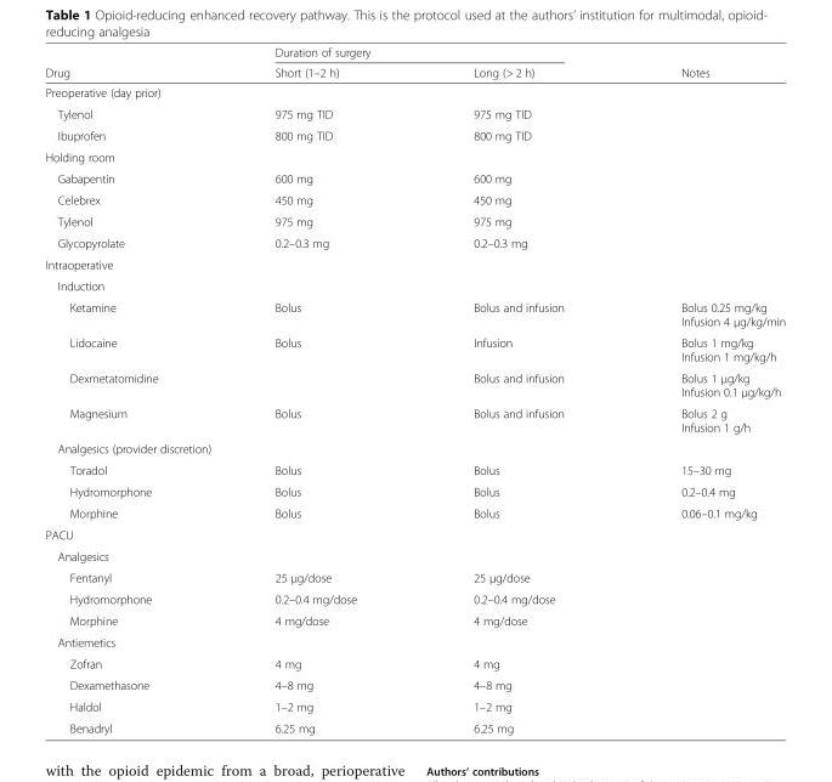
<table><thead><tr><td rowspan="2">Drug</td><td colspan="2">Duration of surgery</td><td rowspan="2">Notes</td></tr><tr><td>Short (1–2 h)</td><td>Long (&gt; 2 h)</td></tr></thead><tbody><tr><td colspan="4">Preoperative (day prior)</td></tr><tr><td>Tylenol</td><td>975 mg TID</td><td>975 mg TID</td><td></td></tr><tr><td>Ibuprofen</td><td>800 mg TID</td><td>800 mg TID</td><td></td></tr><tr><td colspan="4">Holding room</td></tr><tr><td>Gabapentin</td><td>600 mg</td><td>600 mg</td><td></td></tr><tr><td>Celebrex</td><td>450 mg</td><td>450 mg</td><td></td></tr><tr><td>Tylenol</td><td>975 mg</td><td>975 mg</td><td></td></tr><tr><td>Glycopyrolate</td><td>0.2–0.3 mg</td><td>0.2–0.3 mg</td><td></td></tr><tr><td colspan="4">Intraoperative</td></tr><tr><td colspan="4">Induction</td></tr><tr><td>Ketamine</td><td>Bolus</td><td>Bolus and infusion</td><td>Bolus 0.25 mg/kg Infusion 4 μg/kg/min</td></tr><tr><td>Lidocaine</td><td>Bolus</td><td>Infusion</td><td>Bolus 1 mg/kg Infusion 1 mg/kg/h</td></tr><tr><td>Dexmetatomidine</td><td></td><td>Bolus and infusion</td><td>Bolus 1 μg/kg Infusion 0.1 μg/kg/h</td></tr><tr><td>Magnesium</td><td>Bolus</td><td>Bolus and infusion</td><td>Bolus 2 g Infusion 1 g/h</td></tr><tr><td colspan="4">Analgesics (provider discretion)</td></tr><tr><td>Toradol</td><td>Bolus</td><td>Bolus</td><td>15–30 mg</td></tr><tr><td>Hydromorphone</td><td>Bolus</td><td>Bolus</td><td>0.2–0.4 mg</td></tr><tr><td>Morphine</td><td>Bolus</td><td>Bolus</td><td>0.06–0.1 mg/kg</td></tr><tr><td colspan="4">PACU</td></tr><tr><td colspan="4">Analgesics</td></tr><tr><td>Fentanyl</td><td>25 μg/dose</td><td>25 μg/dose</td><td></td></tr><tr><td>Hydromorphone</td><td>0.2–0.4 mg/dose</td><td>0.2–0.4 mg/dose</td><td></td></tr><tr><td>Morphine</td><td>4 mg/dose</td><td>4 mg/dose</td><td></td></tr><tr><td colspan="4">Antiemetics</td></tr><tr><td>Zofran</td><td>4 mg</td><td>4 mg</td><td></td></tr><tr><td>Dexamethasone</td><td>4–8 mg</td><td>4–8 mg</td><td></td></tr><tr><td>Haldol</td><td>1–2 mg</td><td>1–2 mg</td><td></td></tr><tr><td>Benadryl</td><td>6.25 mg</td><td>6.25 mg</td><td></td></tr></tbody></table>